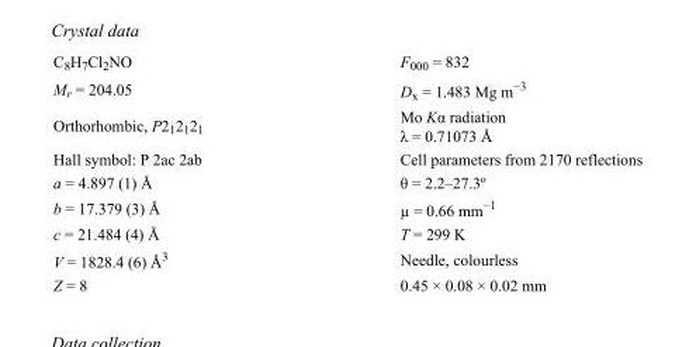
<table><tbody><tr><td>C<sub>8</sub>H<sub>7</sub>Cl<sub>2</sub>NO</td><td>F000 = 832</td></tr><tr><td>M<sub>r</sub> = 204.05</td><td>D<sub>x</sub> = 1.483 Mg m<sup>−3</sup></td></tr><tr><td>Orthorhombic, P2<sub>1</sub>2<sub>1</sub>2<sub>1</sub></td><td>Mo Kα radiation λ = 0.71073 Å</td></tr><tr><td>Hall symbol: P 2ac 2ab</td><td>Cell parameters from 2170 reflections</td></tr><tr><td>a = 4.897 (1) Å</td><td>θ = 2.2–27.3º</td></tr><tr><td>b = 17.379 (3) Å</td><td>µ = 0.66 mm<sup>−1</sup></td></tr><tr><td>c = 21.484 (4) Å</td><td>T = 299 K</td></tr><tr><td>V = 1828.4 (6) Å<sup>3</sup></td><td>Needle, colourless</td></tr><tr><td>Z = 8</td><td>0.45 × 0.08 × 0.02 mm</td></tr></tbody></table>